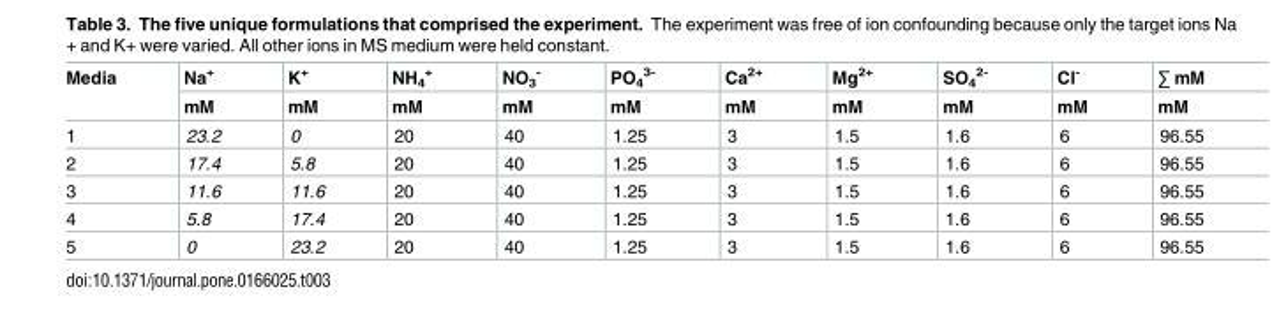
<table><thead><tr><td rowspan="2">Media</td><td rowspan="2">Na<sup>+</sup> mM</td><td rowspan="2">K<sup>+</sup> mM</td><td rowspan="2">NH<sub>4</sub> <sup>+</sup> mM</td><td rowspan="2">NO<sub>3</sub> <sup>-</sup> mM</td><td rowspan="2">PO<sub>4</sub> <sup>3-</sup> mM</td><td rowspan="2">Ca<sup>2+</sup> mM</td><td rowspan="2">Mg<sup>2+</sup> mM</td><td rowspan="2">SO<sub>4</sub> <sup>2-</sup> mM</td><td rowspan="2">Cl<sup>-</sup> mM</td><td rowspan="2">∑ mM mM</td></tr><tr></tr></thead><tbody><tr><td>1</td><td>23.2</td><td>0</td><td>20</td><td>40</td><td>1.25</td><td>3</td><td>1.5</td><td>1.6</td><td>6</td><td>96.55</td></tr><tr><td>2</td><td>17.4</td><td>5.8</td><td>20</td><td>40</td><td>1.25</td><td>3</td><td>1.5</td><td>1.6</td><td>6</td><td>96.55</td></tr><tr><td>3</td><td>11.6</td><td>11.6</td><td>20</td><td>40</td><td>1.25</td><td>3</td><td>1.5</td><td>1.6</td><td>6</td><td>96.55</td></tr><tr><td>4</td><td>5.8</td><td>17.4</td><td>20</td><td>40</td><td>1.25</td><td>3</td><td>1.5</td><td>1.6</td><td>6</td><td>96.55</td></tr><tr><td>5</td><td>0</td><td>23.2</td><td>20</td><td>40</td><td>1.25</td><td>3</td><td>1.5</td><td>1.6</td><td>6</td><td>96.55</td></tr></tbody></table>